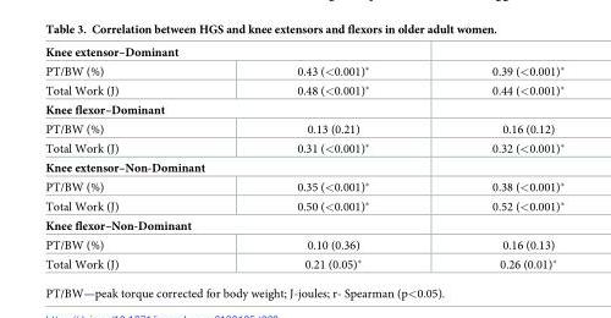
<table><tbody><tr><td colspan="3">Knee extensor–Dominant</td></tr><tr><td>PT/BW (%)</td><td>0.43 (&lt;0.001)*</td><td>0.39 (&lt;0.001)*</td></tr><tr><td>Total Work (J)</td><td>0.48 (&lt;0.001)*</td><td>0.44 (&lt;0.001)*</td></tr><tr><td colspan="3">Knee flexor–Dominant</td></tr><tr><td>PT/BW (%)</td><td>0.13 (0.21)</td><td>0.16 (0.12)</td></tr><tr><td>Total Work (J)</td><td>0.31 (&lt;0.001)*</td><td>0.32 (&lt;0.001)*</td></tr><tr><td colspan="3">Knee extensor–Non-Dominant</td></tr><tr><td>PT/BW (%)</td><td>0.35 (&lt;0.001)*</td><td>0.38 (&lt;0.001)*</td></tr><tr><td>Total Work (J)</td><td>0.50 (&lt;0.001)*</td><td>0.52 (&lt;0.001)*</td></tr><tr><td colspan="3">Knee flexor–Non-Dominant</td></tr><tr><td>PT/BW (%)</td><td>0.10 (0.36)</td><td>0.16 (0.13)</td></tr><tr><td>Total Work (J)</td><td>0.21 (0.05)*</td><td>0.26 (0.01)*</td></tr></tbody></table>